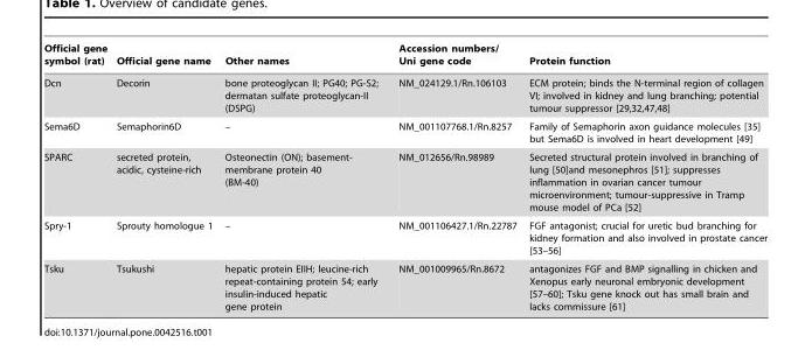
<table><thead><tr><td>Official gene symbol (rat)</td><td>Official gene name</td><td>Other names</td><td>Accession numbers/ Uni gene code</td><td>Protein function</td></tr></thead><tbody><tr><td>Dcn</td><td>Decorin</td><td>bone proteoglycan II; PG40; PG-S2; dermatan sulfate proteoglycan-II (DSPG)</td><td>NM_024129.1/Rn.106103</td><td>ECM protein; binds the N-terminal region of collagen VI; involved in kidney and lung branching; potential tumour suppressor [29,32,47,48]</td></tr><tr><td>Sema6D</td><td>Semaphorin6D</td><td>–</td><td>NM_001107768.1/Rn.8257</td><td>Family of Semaphorin axon guidance molecules [35] but Sema6D is involved in heart development [49]</td></tr><tr><td>SPARC</td><td>secreted protein, acidic, cysteine-rich</td><td>Osteonectin (ON); basement- membrane protein 40 (BM-40)</td><td>NM_012656/Rn.98989</td><td>Secreted structural protein involved in branching of lung [50]and mesonephros [51]; suppresses inflammation in ovarian cancer tumour microenvironment; tumour-suppressive in Tramp mouse model of PCa [52]</td></tr><tr><td>Spry-1</td><td>Sprouty homologue 1</td><td>–</td><td>NM_001106427.1/Rn.22787</td><td>FGF antagonist; crucial for uretic bud branching for kidney formation and also involved in prostate cancer [53–56]</td></tr><tr><td>Tsku</td><td>Tsukushi</td><td>hepatic protein EIIH; leucine-rich repeat-containing protein 54; early insulin-induced hepatic gene protein</td><td>NM_001009965/Rn.8672</td><td>antagonizes FGF and BMP signalling in chicken and Xenopus early neuronal embryonic development [57–60]; Tsku gene knock out has small brain and lacks commissure [61]</td></tr></tbody></table>